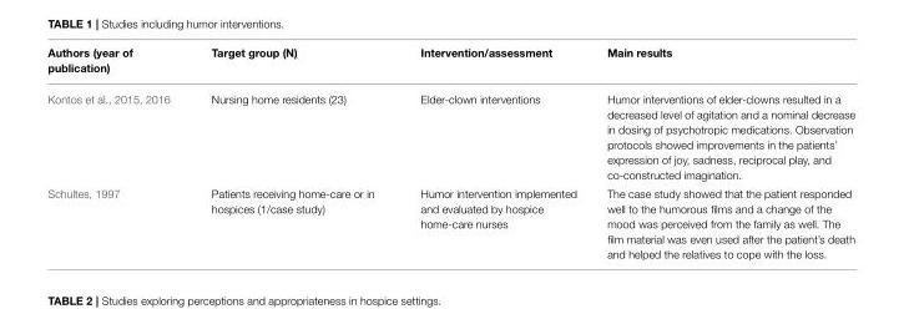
<table><thead><tr><td>Authors (year of publication)</td><td>Target group (N)</td><td>Intervention/assessment</td><td>Main results</td></tr></thead><tbody><tr><td>Kontos et al., 2015, 2016</td><td>Nursing home residents (23)</td><td>Elder-clown interventions</td><td>Humor interventions of elder-clowns resulted in a decreased level of agitation and a nominal decrease in dosing of psychotropic medications. Observation protocols showed improvements in the patients’ expression of joy, sadness, reciprocal play, and co-constructed imagination.</td></tr><tr><td>Schultes, 1997</td><td>Patients receiving home-care or in hospices (1/case study)</td><td>Humor intervention implemented and evaluated by hospice home-care nurses</td><td>The case study showed that the patient responded well to the humorous films and a change of the mood was perceived from the family as well. The film material was even used after the patient’s death and helped the relatives to cope with the loss.</td></tr></tbody></table>